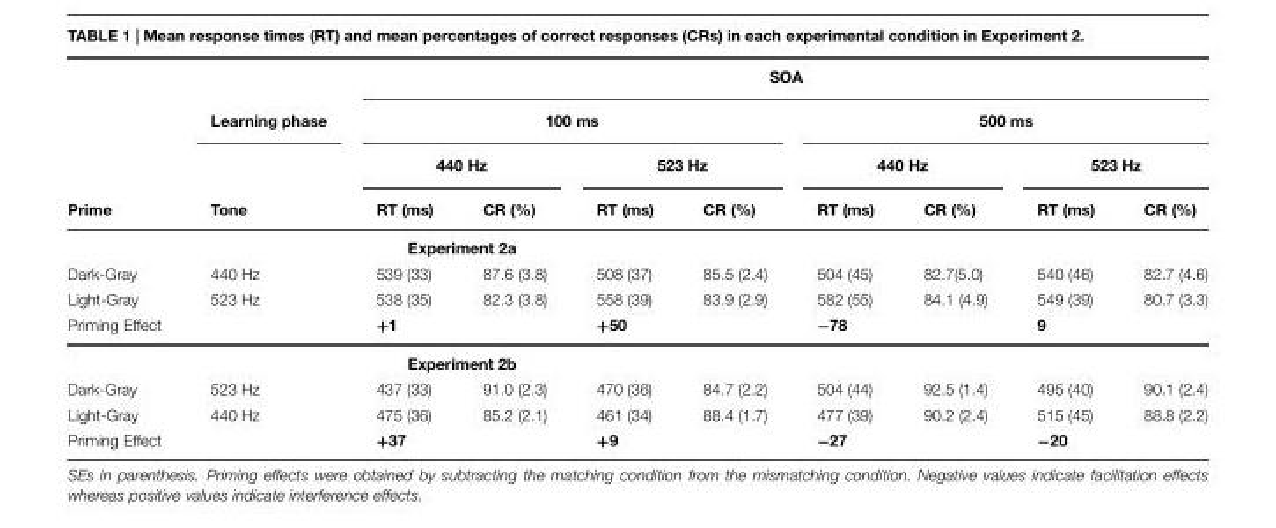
<table><thead><tr><td rowspan="4">Prime</td><td rowspan="4">Learning phase Tone</td><td colspan="8">SOA</td></tr><tr><td colspan="4">100 ms</td><td colspan="4">500 ms</td></tr><tr><td colspan="2">440 Hz</td><td colspan="2">523 Hz</td><td colspan="2">440 Hz</td><td colspan="2">523 Hz</td></tr><tr><td>RT (ms)</td><td>CR (%)</td><td>RT (ms)</td><td>CR (%)</td><td>RT (ms)</td><td>CR (%)</td><td>RT (ms)</td><td>CR (%)</td></tr></thead><tbody><tr><td></td><td></td><td colspan="2">Experiment 2a</td><td></td><td></td><td></td><td></td><td></td><td></td></tr><tr><td>Dark-Gray</td><td>440 Hz</td><td>539 (33)</td><td>87.6 (3.8)</td><td>508 (37)</td><td>85.5 (2.4)</td><td>504 (45)</td><td>82.7(5.0)</td><td>540 (46)</td><td>82.7 (4.6)</td></tr><tr><td>Light-Gray</td><td>523 Hz</td><td>538 (35)</td><td>82.3 (3.8)</td><td>558 (39)</td><td>83.9 (2.9)</td><td>582 (55)</td><td>84.1 (4.9)</td><td>549 (39)</td><td>80.7 (3.3)</td></tr><tr><td rowspan="2">Priming Effect</td><td></td><td>+1</td><td></td><td>+50</td><td></td><td>−78</td><td></td><td>9</td><td></td></tr><tr><td></td><td colspan="2">Experiment 2b</td><td></td><td></td><td></td><td></td><td></td><td></td></tr><tr><td>Dark-Gray</td><td>523 Hz</td><td>437 (33)</td><td>91.0 (2.3)</td><td>470 (36)</td><td>84.7 (2.2)</td><td>504 (44)</td><td>92.5 (1.4)</td><td>495 (40)</td><td>90.1 (2.4)</td></tr><tr><td>Light-Gray</td><td>440 Hz</td><td>475 (36)</td><td>85.2 (2.1)</td><td>461 (34)</td><td>88.4 (1.7)</td><td>477 (39)</td><td>90.2 (2.4)</td><td>515 (45)</td><td>88.8 (2.2)</td></tr><tr><td>Priming Effect</td><td></td><td>+37</td><td></td><td>+9</td><td></td><td>−27</td><td></td><td>−20</td><td></td></tr></tbody></table>